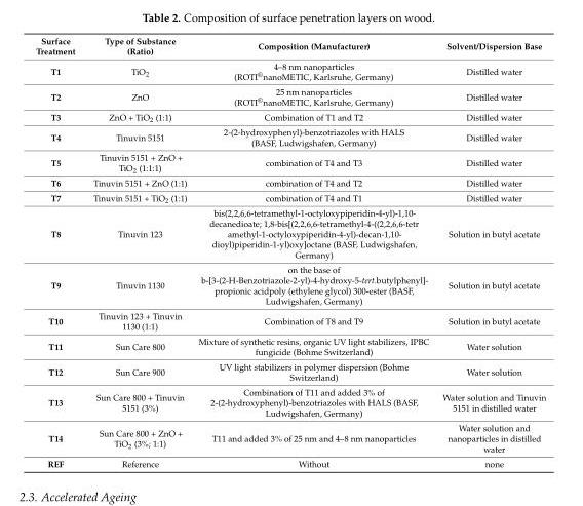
<table><thead><tr><td>Surface Treatment</td><td>Type of Substance (Ratio)</td><td>Composition (Manufacturer)</td><td>Solvent/Dispersion Base</td></tr></thead><tbody><tr><td>T1</td><td>TiO<sub>2</sub></td><td>4–8 nm nanoparticles (ROTI<sup>®</sup>nanoMETIC, Karlsruhe, Germany)</td><td>Distilled water</td></tr><tr><td>T2</td><td>ZnO</td><td>25 nm nanoparticles (ROTI<sup>®</sup>nanoMETIC, Karlsruhe, Germany)</td><td>Distilled water</td></tr><tr><td>T3</td><td>ZnO + TiO<sub>2</sub> (1:1)</td><td>Combination of T1 and T2</td><td>Distilled water</td></tr><tr><td>T4</td><td>Tinuvin 5151</td><td>2-(2-hydroxyphenyl)-benzotriazoles with HALS (BASF, Ludwigshafen, Germany)</td><td>Distilled water</td></tr><tr><td>T5</td><td>Tinuvin 5151 + ZnO + TiO<sub>2</sub> (1:1:1)</td><td>combination of T4 and T3</td><td>Distilled water</td></tr><tr><td>T6</td><td>Tinuvin 5151 + ZnO (1:1)</td><td>combination of T4 and T2</td><td>Distilled water</td></tr><tr><td>T7</td><td>Tinuvin 5151 + TiO<sub>2</sub> (1:1)</td><td>combination of T4 and T1</td><td>Distilled water</td></tr><tr><td>T8</td><td>Tinuvin 123</td><td>bis(2,2,6,6-tetramethyl-1-octyloxypiperidin-4-yl)-1,10- decanedioate; 1,8-bis[(2,2,6,6-tetramethyl-4-((2,2,6,6-tetr amethyl-1-octyloxypiperidin-4-yl)-decan-1,10- dioyl)piperidin-1-yl)oxy]octane (BASF, Ludwigshafen, Germany)</td><td>Solution in butyl acetate</td></tr><tr><td>T9</td><td>Tinuvin 1130</td><td>on the base of b-[3-(2-H-Benzotriazole-2-yl)-4-hydroxy-5-tert.butylphenyl]- propionic acidpoly (ethylene glycol) 300-ester (BASF, Ludwigshafen, Germany)</td><td>Solution in butyl acetate</td></tr><tr><td>T10</td><td>Tinuvin 123 + Tinuvin 1130 (1:1)</td><td>Combination of T8 and T9</td><td>Solution in butyl acetate</td></tr><tr><td>T11</td><td>Sun Care 800</td><td>Mixture of synthetic resins, organic UV light stabilizers, IPBC fungicide (Bohme Switzerland)</td><td>Water solution</td></tr><tr><td>T12</td><td>Sun Care 900</td><td>UV light stabilizers in polymer dispersion (Bohme Switzerland)</td><td>Water solution</td></tr><tr><td>T13</td><td>Sun Care 800 + Tinuvin 5151 (3%)</td><td>Combination of T11 and added 3% of 2-(2-hydroxyphenyl)-benzotriazoles with HALS (BASF, Ludwigshafen, Germany)</td><td>Water solution and Tinuvin 5151 in distilled water</td></tr><tr><td>T14</td><td>Sun Care 800 + ZnO + TiO<sub>2</sub> (3%; 1:1)</td><td>T11 and added 3% of 25 nm and 4–8 nm nanoparticles</td><td>Water solution and nanoparticles in distilled water</td></tr><tr><td>REF</td><td>Reference</td><td>Without</td><td>none</td></tr></tbody></table>